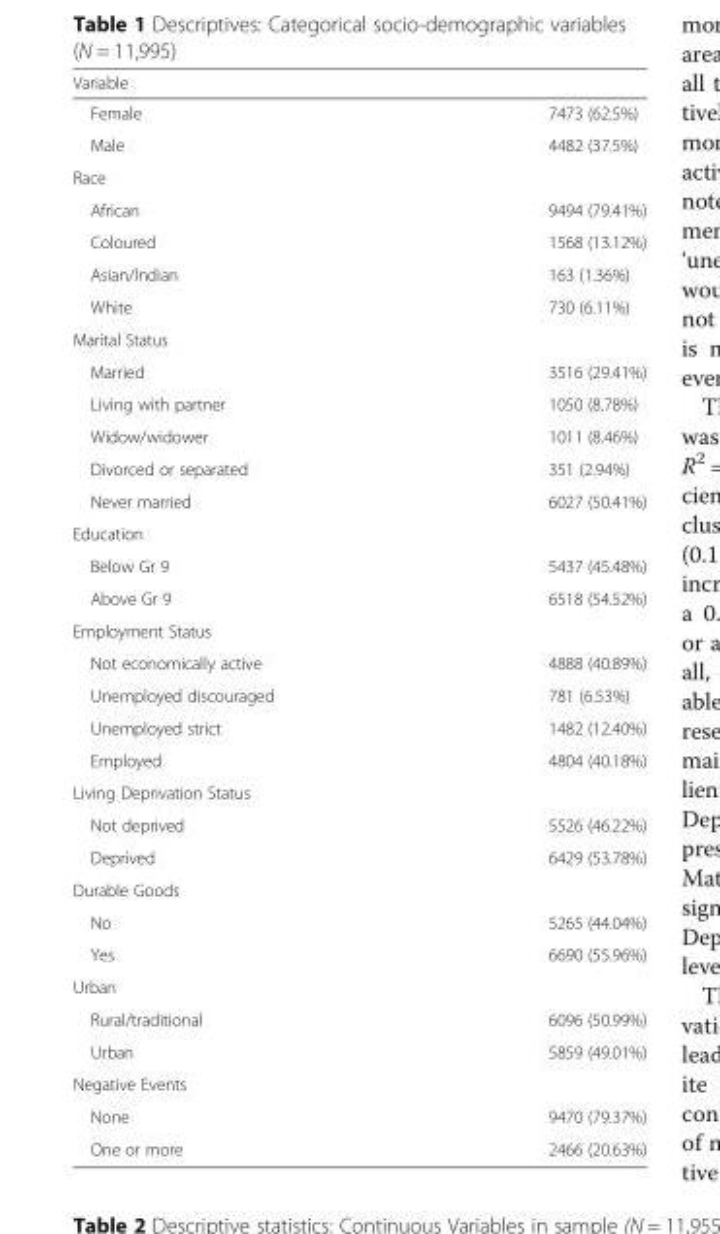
<table><thead><tr><td colspan="2">Variable</td></tr><tr><td>Female</td><td>7473 (62.5%)</td></tr></thead><tbody><tr><td>Male</td><td>4482 (37.5%)</td></tr><tr><td colspan="2">Race</td></tr><tr><td>African</td><td>9494 (79.41%)</td></tr><tr><td>Coloured</td><td>1568 (13.12%)</td></tr><tr><td>Asian/Indian</td><td>163 (1.36%)</td></tr><tr><td>White</td><td>730 (6.11%)</td></tr><tr><td colspan="2">Marital Status</td></tr><tr><td>Married</td><td>3516 (29.41%)</td></tr><tr><td>Living with partner</td><td>1050 (8.78%)</td></tr><tr><td>Widow/widower</td><td>1011 (8.46%)</td></tr><tr><td>Divorced or separated</td><td>351 (2.94%)</td></tr><tr><td>Never married</td><td>6027 (50.41%)</td></tr><tr><td colspan="2">Education</td></tr><tr><td>Below Gr 9</td><td>5437 (45.48%)</td></tr><tr><td>Above Gr 9</td><td>6518 (54.52%)</td></tr><tr><td colspan="2">Employment Status</td></tr><tr><td>Not economically active</td><td>4888 (40.89%)</td></tr><tr><td>Unemployed discouraged</td><td>781 (6.53%)</td></tr><tr><td>Unemployed strict</td><td>1482 (12.40%)</td></tr><tr><td>Employed</td><td>4804 (40.18%)</td></tr><tr><td colspan="2">Living Deprivation Status</td></tr><tr><td>Not deprived</td><td>5526 (46.22%)</td></tr><tr><td>Deprived</td><td>6429 (53.78%)</td></tr><tr><td colspan="2">Durable Goods</td></tr><tr><td>No</td><td>5265 (44.04%)</td></tr><tr><td>Yes</td><td>6690 (55.96%)</td></tr><tr><td colspan="2">Urban</td></tr><tr><td>Rural/traditional</td><td>6096 (50.99%)</td></tr><tr><td>Urban</td><td>5859 (49.01%)</td></tr><tr><td colspan="2">Negative Events</td></tr><tr><td>None</td><td>9470 (79.37%)</td></tr><tr><td>One or more</td><td>2466 (20.63%)</td></tr></tbody></table>